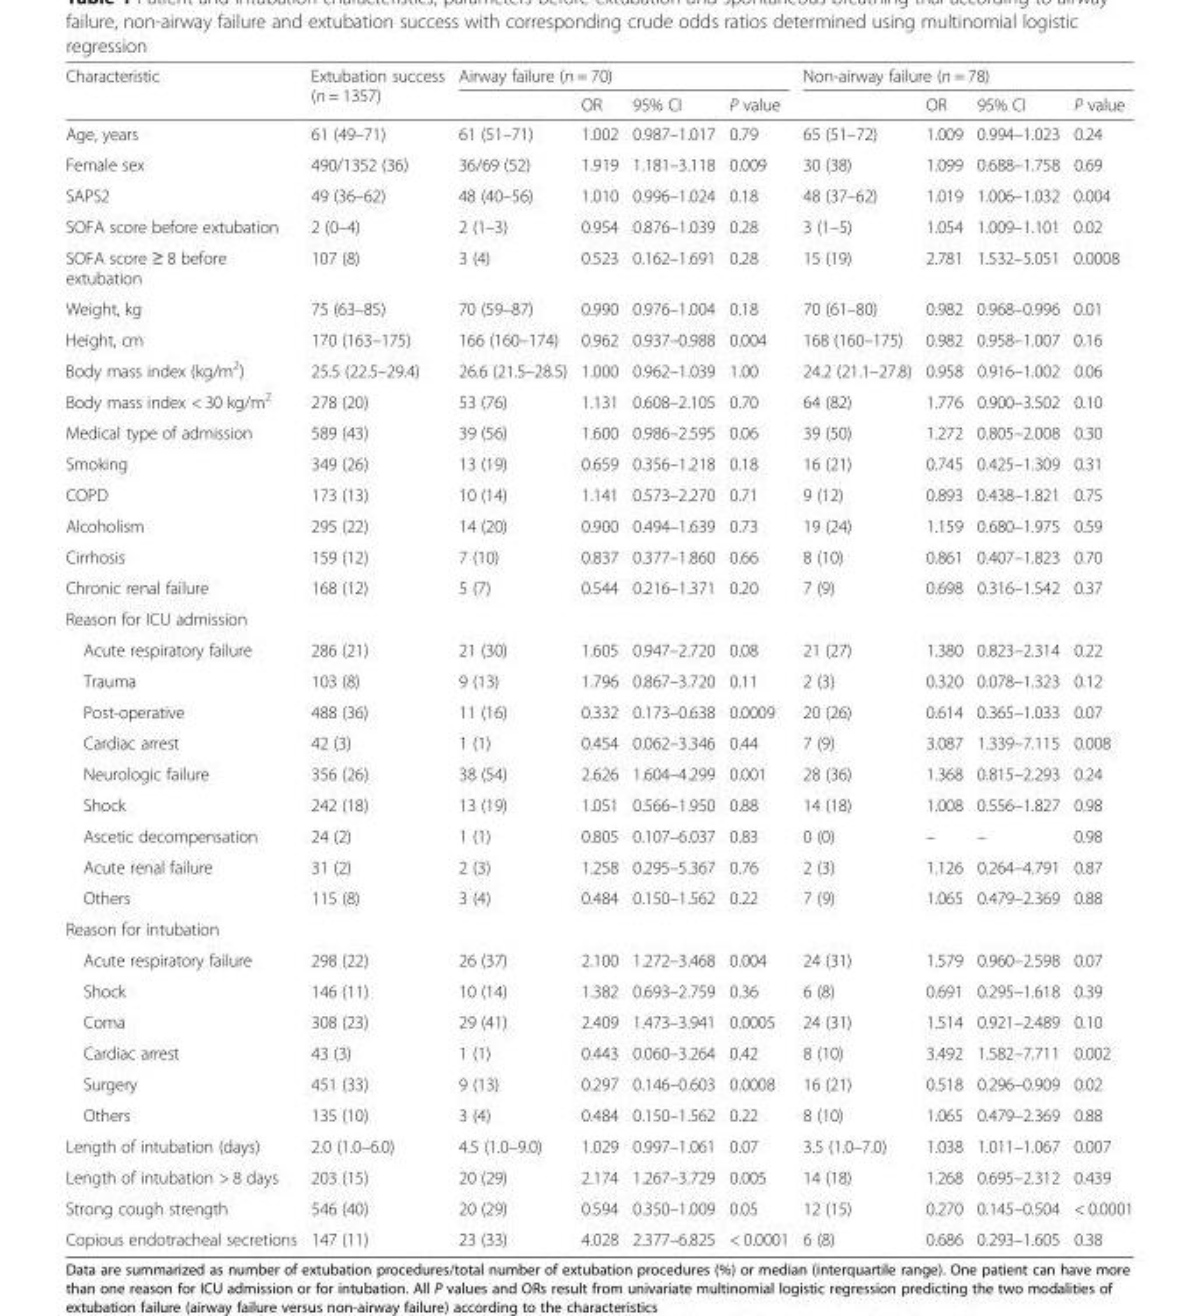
<table><thead><tr><td rowspan="2">Characteristic</td><td rowspan="2">Extubation success (n = 1357)</td><td colspan="4">Airway failure (n = 70)</td><td colspan="4">Non-airway failure (n = 78)</td></tr><tr><td></td><td>OR</td><td>95% CI</td><td>P value</td><td></td><td>OR</td><td>95% CI</td><td>P value</td></tr></thead><tbody><tr><td>Age, years</td><td>61 (49–71)</td><td>61 (51–71)</td><td>1.002</td><td>0.987–1.017</td><td>0.79</td><td>65 (51–72)</td><td>1.009</td><td>0.994–1.023</td><td>0.24</td></tr><tr><td>Female sex</td><td>490/1352 (36)</td><td>36/69 (52)</td><td>1.919</td><td>1.181–3.118</td><td>0.009</td><td>30 (38)</td><td>1.099</td><td>0.688–1.758</td><td>0.69</td></tr><tr><td>SAPS2</td><td>49 (36–62)</td><td>48 (40–56)</td><td>1.010</td><td>0.996–1.024</td><td>0.18</td><td>48 (37–62)</td><td>1.019</td><td>1.006–1.032</td><td>0.004</td></tr><tr><td>SOFA score before extubation</td><td>2 (0–4)</td><td>2 (1–3)</td><td>0.954</td><td>0.876–1.039</td><td>0.28</td><td>3 (1–5)</td><td>1.054</td><td>1.009–1.101</td><td>0.02</td></tr><tr><td>SOFA score ≥ 8 before extubation</td><td>107 (8)</td><td>3 (4)</td><td>0.523</td><td>0.162–1.691</td><td>0.28</td><td>15 (19)</td><td>2.781</td><td>1.532–5.051</td><td>0.0008</td></tr><tr><td>Weight, kg</td><td>75 (63–85)</td><td>70 (59–87)</td><td>0.990</td><td>0.976–1.004</td><td>0.18</td><td>70 (61–80)</td><td>0.982</td><td>0.968–0.996</td><td>0.01</td></tr><tr><td>Height, cm</td><td>170 (163–175)</td><td>166 (160–174)</td><td>0.962</td><td>0.937–0.988</td><td>0.004</td><td>168 (160–175)</td><td>0.982</td><td>0.958–1.007</td><td>0.16</td></tr><tr><td>Body mass index (kg/m<sup>2</sup>)</td><td>25.5 (22.5–29.4)</td><td>26.6 (21.5–28.5)</td><td>1.000</td><td>0.962–1.039</td><td>1.00</td><td>24.2 (21.1–27.8)</td><td>0.958</td><td>0.916–1.002</td><td>0.06</td></tr><tr><td>Body mass index &lt; 30 kg/m<sup>2</sup></td><td>278 (20)</td><td>53 (76)</td><td>1.131</td><td>0.608–2.105</td><td>0.70</td><td>64 (82)</td><td>1.776</td><td>0.900–3.502</td><td>0.10</td></tr><tr><td>Medical type of admission</td><td>589 (43)</td><td>39 (56)</td><td>1.600</td><td>0.986–2.595</td><td>0.06</td><td>39 (50)</td><td>1.272</td><td>0.805–2.008</td><td>0.30</td></tr><tr><td>Smoking</td><td>349 (26)</td><td>13 (19)</td><td>0.659</td><td>0.356–1.218</td><td>0.18</td><td>16 (21)</td><td>0.745</td><td>0.425–1.309</td><td>0.31</td></tr><tr><td>COPD</td><td>173 (13)</td><td>10 (14)</td><td>1.141</td><td>0.573–2.270</td><td>0.71</td><td>9 (12)</td><td>0.893</td><td>0.438–1.821</td><td>0.75</td></tr><tr><td>Alcoholism</td><td>295 (22)</td><td>14 (20)</td><td>0.900</td><td>0.494–1.639</td><td>0.73</td><td>19 (24)</td><td>1.159</td><td>0.680–1.975</td><td>0.59</td></tr><tr><td>Cirrhosis</td><td>159 (12)</td><td>7 (10)</td><td>0.837</td><td>0.377–1.860</td><td>0.66</td><td>8 (10)</td><td>0.861</td><td>0.407–1.823</td><td>0.70</td></tr><tr><td>Chronic renal failure</td><td>168 (12)</td><td>5 (7)</td><td>0.544</td><td>0.216–1.371</td><td>0.20</td><td>7 (9)</td><td>0.698</td><td>0.316–1.542</td><td>0.37</td></tr><tr><td colspan="10">Reason for ICU admission</td></tr><tr><td>Acute respiratory failure</td><td>286 (21)</td><td>21 (30)</td><td>1.605</td><td>0.947–2.720</td><td>0.08</td><td>21 (27)</td><td>1.380</td><td>0.823–2.314</td><td>0.22</td></tr><tr><td>Trauma</td><td>103 (8)</td><td>9 (13)</td><td>1.796</td><td>0.867–3.720</td><td>0.11</td><td>2 (3)</td><td>0.320</td><td>0.078–1.323</td><td>0.12</td></tr><tr><td>Post-operative</td><td>488 (36)</td><td>11 (16)</td><td>0.332</td><td>0.173–0.638</td><td>0.0009</td><td>20 (26)</td><td>0.614</td><td>0.365–1.033</td><td>0.07</td></tr><tr><td>Cardiac arrest</td><td>42 (3)</td><td>1 (1)</td><td>0.454</td><td>0.062–3.346</td><td>0.44</td><td>7 (9)</td><td>3.087</td><td>1.339–7.115</td><td>0.008</td></tr><tr><td>Neurologic failure</td><td>356 (26)</td><td>38 (54)</td><td>2.626</td><td>1.604–4.299</td><td>0.001</td><td>28 (36)</td><td>1.368</td><td>0.815–2.293</td><td>0.24</td></tr><tr><td>Shock</td><td>242 (18)</td><td>13 (19)</td><td>1.051</td><td>0.566–1.950</td><td>0.88</td><td>14 (18)</td><td>1.008</td><td>0.556–1.827</td><td>0.98</td></tr><tr><td>Ascetic decompensation</td><td>24 (2)</td><td>1 (1)</td><td>0.805</td><td>0.107–6.037</td><td>0.83</td><td>0 (0)</td><td>–</td><td>–</td><td>0.98</td></tr><tr><td>Acute renal failure</td><td>31 (2)</td><td>2 (3)</td><td>1.258</td><td>0.295–5.367</td><td>0.76</td><td>2 (3)</td><td>1.126</td><td>0.264–4.791</td><td>0.87</td></tr><tr><td>Others</td><td>115 (8)</td><td>3 (4)</td><td>0.484</td><td>0.150–1.562</td><td>0.22</td><td>7 (9)</td><td>1.065</td><td>0.479–2.369</td><td>0.88</td></tr><tr><td colspan="10">Reason for intubation</td></tr><tr><td>Acute respiratory failure</td><td>298 (22)</td><td>26 (37)</td><td>2.100</td><td>1.272–3.468</td><td>0.004</td><td>24 (31)</td><td>1.579</td><td>0.960–2.598</td><td>0.07</td></tr><tr><td>Shock</td><td>146 (11)</td><td>10 (14)</td><td>1.382</td><td>0.693–2.759</td><td>0.36</td><td>6 (8)</td><td>0.691</td><td>0.295–1.618</td><td>0.39</td></tr><tr><td>Coma</td><td>308 (23)</td><td>29 (41)</td><td>2.409</td><td>1.473–3.941</td><td>0.0005</td><td>24 (31)</td><td>1.514</td><td>0.921–2.489</td><td>0.10</td></tr><tr><td>Cardiac arrest</td><td>43 (3)</td><td>1 (1)</td><td>0.443</td><td>0.060–3.264</td><td>0.42</td><td>8 (10)</td><td>3.492</td><td>1.582–7.711</td><td>0.002</td></tr><tr><td>Surgery</td><td>451 (33)</td><td>9 (13)</td><td>0.297</td><td>0.146–0.603</td><td>0.0008</td><td>16 (21)</td><td>0.518</td><td>0.296–0.909</td><td>0.02</td></tr><tr><td>Others</td><td>135 (10)</td><td>3 (4)</td><td>0.484</td><td>0.150–1.562</td><td>0.22</td><td>8 (10)</td><td>1.065</td><td>0.479–2.369</td><td>0.88</td></tr><tr><td>Length of intubation (days)</td><td>2.0 (1.0–6.0)</td><td>4.5 (1.0–9.0)</td><td>1.029</td><td>0.997–1.061</td><td>0.07</td><td>3.5 (1.0–7.0)</td><td>1.038</td><td>1.011–1.067</td><td>0.007</td></tr><tr><td>Length of intubation &gt; 8 days</td><td>203 (15)</td><td>20 (29)</td><td>2.174</td><td>1.267–3.729</td><td>0.005</td><td>14 (18)</td><td>1.268</td><td>0.695–2.312</td><td>0.439</td></tr><tr><td>Strong cough strength</td><td>546 (40)</td><td>20 (29)</td><td>0.594</td><td>0.350–1.009</td><td>0.05</td><td>12 (15)</td><td>0.270</td><td>0.145–0.504</td><td>&lt; 0.0001</td></tr><tr><td>Copious endotracheal secretions</td><td>147 (11)</td><td>23 (33)</td><td>4.028</td><td>2.377–6.825</td><td>&lt; 0.0001</td><td>6 (8)</td><td>0.686</td><td>0.293–1.605</td><td>0.38</td></tr></tbody></table>